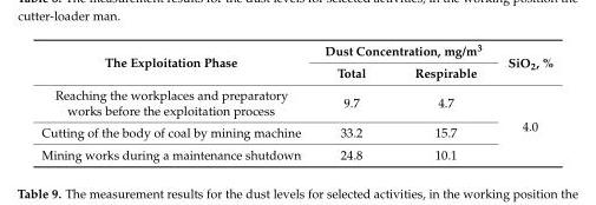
<table><thead><tr><td rowspan="2">The Exploitation Phase</td><td colspan="2">Dust Concentration, mg/m<sup>3</sup></td><td rowspan="2">SiO<sub>2</sub>, %</td></tr><tr><td>Total</td><td>Respirable</td></tr></thead><tbody><tr><td>Reaching the workplaces and preparatory works before the exploitation process</td><td>9.7</td><td>4.7</td><td rowspan="3">4.0</td></tr><tr><td>Cutting of the body of coal by mining machine</td><td>33.2</td><td>15.7</td></tr><tr><td>Mining works during a maintenance shutdown</td><td>24.8</td><td>10.1</td></tr></tbody></table>